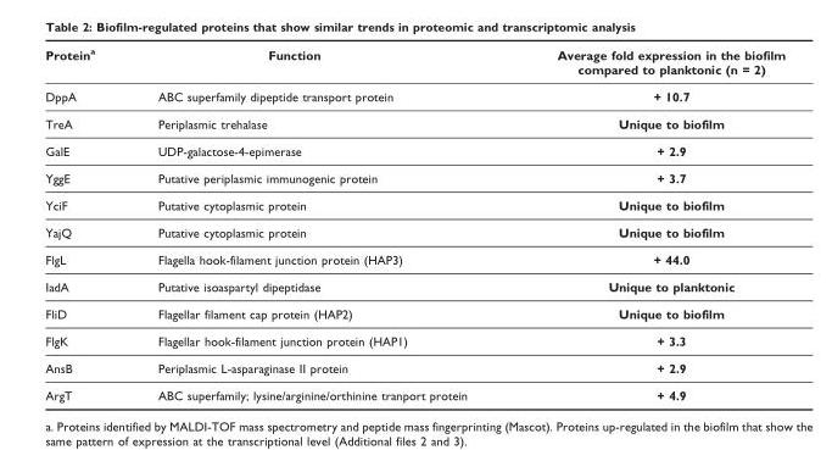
<table><thead><tr><td>Protein<sup>a</sup></td><td>Function</td><td>Average fold expression in the biofilm compared to planktonic (n = 2)</td></tr></thead><tbody><tr><td>DppA</td><td>ABC superfamily dipeptide transport protein</td><td>+ 10.7</td></tr><tr><td>TreA</td><td>Periplasmic trehalase</td><td>Unique to biofilm</td></tr><tr><td>GalE</td><td>UDP-galactose-4-epimerase</td><td>+ 2.9</td></tr><tr><td>YggE</td><td>Putative periplasmic immunogenic protein</td><td>+ 3.7</td></tr><tr><td>YciF</td><td>Putative cytoplasmic protein</td><td>Unique to biofilm</td></tr><tr><td>YajQ</td><td>Putative cytoplasmic protein</td><td>Unique to biofilm</td></tr><tr><td>FlgL</td><td>Flagella hook-filament junction protein (HAP3)</td><td>+ 44.0</td></tr><tr><td>IadA</td><td>Putative isoaspartyl dipeptidase</td><td>Unique to planktonic</td></tr><tr><td>FliD</td><td>Flagellar filament cap protein (HAP2)</td><td>Unique to biofilm</td></tr><tr><td>FlgK</td><td>Flagellar hook-filament junction protein (HAP1)</td><td>+ 3.3</td></tr><tr><td>AnsB</td><td>Periplasmic L-asparaginase II protein</td><td>+ 2.9</td></tr><tr><td>ArgT</td><td>ABC superfamily; lysine/arginine/orthinine tranport protein</td><td>+ 4.9</td></tr></tbody></table>